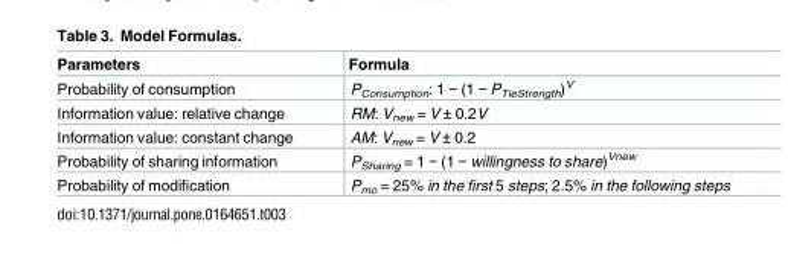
<table><thead><tr><td>Parameters</td><td>Formula</td></tr></thead><tbody><tr><td>Probability of consumption</td><td>P<sub>Consumption</sub>: 1 − (1 − P<sub>TieStrength</sub>)<sup>V</sup></td></tr><tr><td>Information value: relative change</td><td>RM: V<sub>new</sub> = V ± 0.2V</td></tr><tr><td>Information value: constant change</td><td>AM: V<sub>new</sub> = V ± 0.2</td></tr><tr><td>Probability of sharing information</td><td>P<sub>Sharing</sub> = 1 − (1 − willingness to share)<sup>Vnew</sup></td></tr><tr><td>Probability of modification</td><td>P<sub>mo</sub> = 25% in the first 5 steps; 2.5% in the following steps</td></tr></tbody></table>